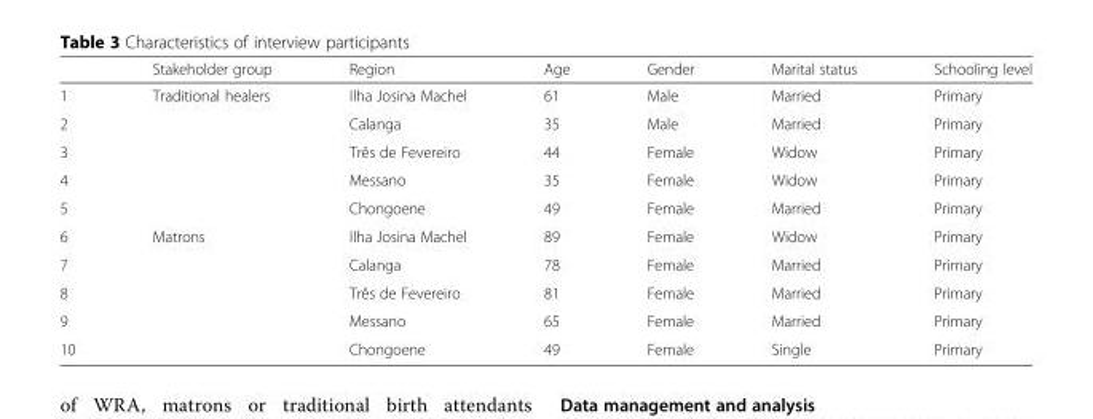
<table><thead><tr><td></td><td>Stakeholder group</td><td>Region</td><td>Age</td><td>Gender</td><td>Marital status</td><td>Schooling level</td></tr></thead><tbody><tr><td>1</td><td rowspan="5">Traditional healers</td><td>Ilha Josina Machel</td><td>61</td><td>Male</td><td>Married</td><td>Primary</td></tr><tr><td>2</td><td>Calanga</td><td>35</td><td>Male</td><td>Married</td><td>Primary</td></tr><tr><td>3</td><td>Três de Fevereiro</td><td>44</td><td>Female</td><td>Widow</td><td>Primary</td></tr><tr><td>4</td><td>Messano</td><td>35</td><td>Female</td><td>Widow</td><td>Primary</td></tr><tr><td>5</td><td>Chongoene</td><td>49</td><td>Female</td><td>Married</td><td>Primary</td></tr><tr><td>6</td><td rowspan="5">Matrons</td><td>Ilha Josina Machel</td><td>89</td><td>Female</td><td>Widow</td><td>Primary</td></tr><tr><td>7</td><td>Calanga</td><td>78</td><td>Female</td><td>Married</td><td>Primary</td></tr><tr><td>8</td><td>Três de Fevereiro</td><td>81</td><td>Female</td><td>Married</td><td>Primary</td></tr><tr><td>9</td><td>Messano</td><td>65</td><td>Female</td><td>Married</td><td>Primary</td></tr><tr><td>10</td><td>Chongoene</td><td>49</td><td>Female</td><td>Single</td><td>Primary</td></tr></tbody></table>